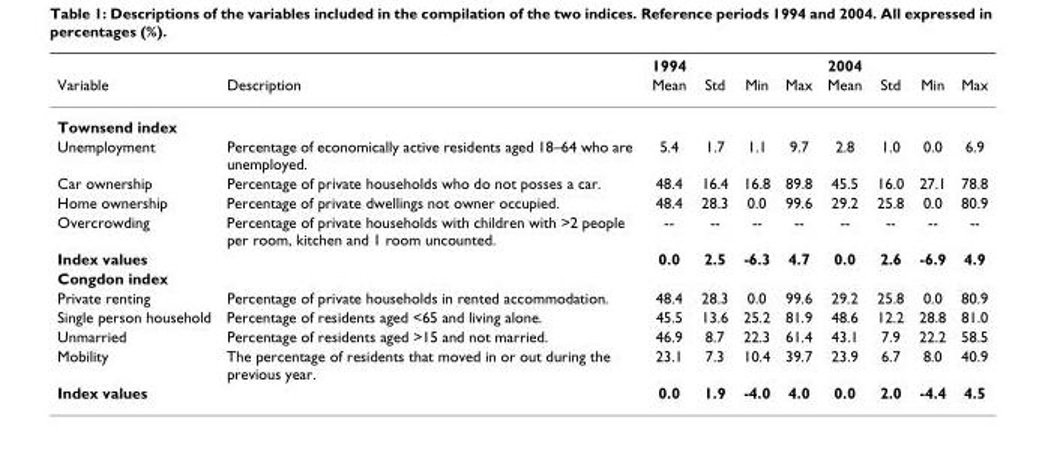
<table><thead><tr><td rowspan="2">Variable</td><td rowspan="2">Description</td><td rowspan="2">1994 Mean</td><td rowspan="2">Std</td><td rowspan="2">Min</td><td rowspan="2">Max</td><td rowspan="2">2004 Mean</td><td rowspan="2">Std</td><td rowspan="2">Min</td><td rowspan="2">Max</td></tr><tr></tr></thead><tbody><tr><td colspan="10">Townsend index</td></tr><tr><td>Unemployment</td><td>Percentage of economically active residents aged 18–64 who are unemployed.</td><td>5.4</td><td>1.7</td><td>1.1</td><td>9.7</td><td>2.8</td><td>1.0</td><td>0.0</td><td>6.9</td></tr><tr><td>Car ownership</td><td>Percentage of private households who do not posses a car.</td><td>48.4</td><td>16.4</td><td>16.8</td><td>89.8</td><td>45.5</td><td>16.0</td><td>27.1</td><td>78.8</td></tr><tr><td>Home ownership</td><td>Percentage of private dwellings not owner occupied.</td><td>48.4</td><td>28.3</td><td>0.0</td><td>99.6</td><td>29.2</td><td>25.8</td><td>0.0</td><td>80.9</td></tr><tr><td>Overcrowding</td><td>Percentage of private households with children with &gt;2 people per room, kitchen and 1 room uncounted.</td><td>--</td><td>--</td><td>--</td><td>--</td><td>--</td><td>--</td><td>--</td><td>--</td></tr><tr><td>Index values</td><td></td><td>0.0</td><td>2.5</td><td>-6.3</td><td>4.7</td><td>0.0</td><td>2.6</td><td>-6.9</td><td>4.9</td></tr><tr><td colspan="10">Congdon index</td></tr><tr><td>Private renting</td><td>Percentage of private households in rented accommodation.</td><td>48.4</td><td>28.3</td><td>0.0</td><td>99.6</td><td>29.2</td><td>25.8</td><td>0.0</td><td>80.9</td></tr><tr><td>Single person household</td><td>Percentage of residents aged &lt;65 and living alone.</td><td>45.5</td><td>13.6</td><td>25.2</td><td>81.9</td><td>48.6</td><td>12.2</td><td>28.8</td><td>81.0</td></tr><tr><td>Unmarried</td><td>Percentage of residents aged &gt;15 and not married.</td><td>46.9</td><td>8.7</td><td>22.3</td><td>61.4</td><td>43.1</td><td>7.9</td><td>22.2</td><td>58.5</td></tr><tr><td>Mobility</td><td>The percentage of residents that moved in or out during the previous year.</td><td>23.1</td><td>7.3</td><td>10.4</td><td>39.7</td><td>23.9</td><td>6.7</td><td>8.0</td><td>40.9</td></tr><tr><td>Index values</td><td></td><td>0.0</td><td>1.9</td><td>-4.0</td><td>4.0</td><td>0.0</td><td>2.0</td><td>-4.4</td><td>4.5</td></tr></tbody></table>